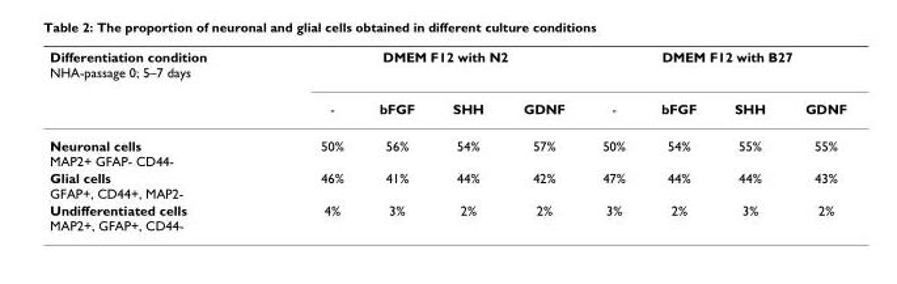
<table><thead><tr><td rowspan="2">Differentiation condition NHA-passage 0; 5–7 days</td><td colspan="4">DMEM F12 with N2</td><td colspan="4">DMEM F12 with B27</td></tr><tr><td>-</td><td>bFGF</td><td>SHH</td><td>GDNF</td><td>-</td><td>bFGF</td><td>SHH</td><td>GDNF</td></tr></thead><tbody><tr><td>Neuronal cells MAP2+ GFAP- CD44-</td><td>50%</td><td>56%</td><td>54%</td><td>57%</td><td>50%</td><td>54%</td><td>55%</td><td>55%</td></tr><tr><td>Glial cells GFAP+, CD44+, MAP2-</td><td>46%</td><td>41%</td><td>44%</td><td>42%</td><td>47%</td><td>44%</td><td>44%</td><td>43%</td></tr><tr><td>Undifferentiated cells MAP2+, GFAP+, CD44-</td><td>4%</td><td>3%</td><td>2%</td><td>2%</td><td>3%</td><td>2%</td><td>3%</td><td>2%</td></tr></tbody></table>